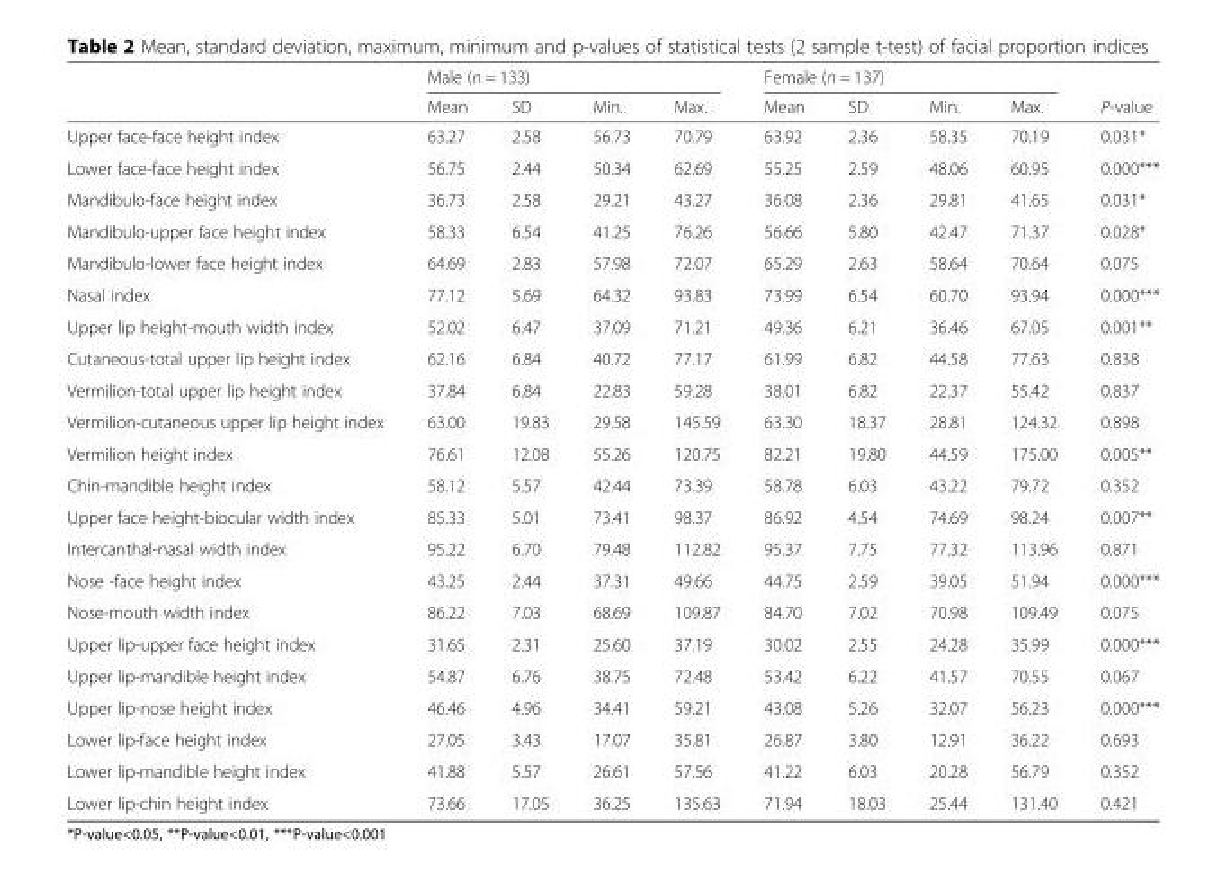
<table><thead><tr><td rowspan="2"></td><td colspan="4">Male (n = 133)</td><td colspan="4">Female (n = 137)</td><td rowspan="2">P-value</td></tr><tr><td>Mean</td><td>SD</td><td>Min.</td><td>Max.</td><td>Mean</td><td>SD</td><td>Min.</td><td>Max.</td></tr></thead><tbody><tr><td>Upper face-face height index</td><td>63.27</td><td>2.58</td><td>56.73</td><td>70.79</td><td>63.92</td><td>2.36</td><td>58.35</td><td>70.19</td><td>0.031*</td></tr><tr><td>Lower face-face height index</td><td>56.75</td><td>2.44</td><td>50.34</td><td>62.69</td><td>55.25</td><td>2.59</td><td>48.06</td><td>60.95</td><td>0.000***</td></tr><tr><td>Mandibulo-face height index</td><td>36.73</td><td>2.58</td><td>29.21</td><td>43.27</td><td>36.08</td><td>2.36</td><td>29.81</td><td>41.65</td><td>0.031*</td></tr><tr><td>Mandibulo-upper face height index</td><td>58.33</td><td>6.54</td><td>41.25</td><td>76.26</td><td>56.66</td><td>5.80</td><td>42.47</td><td>71.37</td><td>0.028*</td></tr><tr><td>Mandibulo-lower face height index</td><td>64.69</td><td>2.83</td><td>57.98</td><td>72.07</td><td>65.29</td><td>2.63</td><td>58.64</td><td>70.64</td><td>0.075</td></tr><tr><td>Nasal index</td><td>77.12</td><td>5.69</td><td>64.32</td><td>93.83</td><td>73.99</td><td>6.54</td><td>60.70</td><td>93.94</td><td>0.000***</td></tr><tr><td>Upper lip height-mouth width index</td><td>52.02</td><td>6.47</td><td>37.09</td><td>71.21</td><td>49.36</td><td>6.21</td><td>36.46</td><td>67.05</td><td>0.001**</td></tr><tr><td>Cutaneous-total upper lip height index</td><td>62.16</td><td>6.84</td><td>40.72</td><td>77.17</td><td>61.99</td><td>6.82</td><td>44.58</td><td>77.63</td><td>0.838</td></tr><tr><td>Vermilion-total upper lip height index</td><td>37.84</td><td>6.84</td><td>22.83</td><td>59.28</td><td>38.01</td><td>6.82</td><td>22.37</td><td>55.42</td><td>0.837</td></tr><tr><td>Vermilion-cutaneous upper lip height index</td><td>63.00</td><td>19.83</td><td>29.58</td><td>145.59</td><td>63.30</td><td>18.37</td><td>28.81</td><td>124.32</td><td>0.898</td></tr><tr><td>Vermilion height index</td><td>76.61</td><td>12.08</td><td>55.26</td><td>120.75</td><td>82.21</td><td>19.80</td><td>44.59</td><td>175.00</td><td>0.005**</td></tr><tr><td>Chin-mandible height index</td><td>58.12</td><td>5.57</td><td>42.44</td><td>73.39</td><td>58.78</td><td>6.03</td><td>43.22</td><td>79.72</td><td>0.352</td></tr><tr><td>Upper face height-biocular width index</td><td>85.33</td><td>5.01</td><td>73.41</td><td>98.37</td><td>86.92</td><td>4.54</td><td>74.69</td><td>98.24</td><td>0.007**</td></tr><tr><td>Intercanthal-nasal width index</td><td>95.22</td><td>6.70</td><td>79.48</td><td>112.82</td><td>95.37</td><td>7.75</td><td>77.32</td><td>113.96</td><td>0.871</td></tr><tr><td>Nose -face height index</td><td>43.25</td><td>2.44</td><td>37.31</td><td>49.66</td><td>44.75</td><td>2.59</td><td>39.05</td><td>51.94</td><td>0.000***</td></tr><tr><td>Nose-mouth width index</td><td>86.22</td><td>7.03</td><td>68.69</td><td>109.87</td><td>84.70</td><td>7.02</td><td>70.98</td><td>109.49</td><td>0.075</td></tr><tr><td>Upper lip-upper face height index</td><td>31.65</td><td>2.31</td><td>25.60</td><td>37.19</td><td>30.02</td><td>2.55</td><td>24.28</td><td>35.99</td><td>0.000***</td></tr><tr><td>Upper lip-mandible height index</td><td>54.87</td><td>6.76</td><td>38.75</td><td>72.48</td><td>53.42</td><td>6.22</td><td>41.57</td><td>70.55</td><td>0.067</td></tr><tr><td>Upper lip-nose height index</td><td>46.46</td><td>4.96</td><td>34.41</td><td>59.21</td><td>43.08</td><td>5.26</td><td>32.07</td><td>56.23</td><td>0.000***</td></tr><tr><td>Lower lip-face height index</td><td>27.05</td><td>3.43</td><td>17.07</td><td>35.81</td><td>26.87</td><td>3.80</td><td>12.91</td><td>36.22</td><td>0.693</td></tr><tr><td>Lower lip-mandible height index</td><td>41.88</td><td>5.57</td><td>26.61</td><td>57.56</td><td>41.22</td><td>6.03</td><td>20.28</td><td>56.79</td><td>0.352</td></tr><tr><td>Lower lip-chin height index</td><td>73.66</td><td>17.05</td><td>36.25</td><td>135.63</td><td>71.94</td><td>18.03</td><td>25.44</td><td>131.40</td><td>0.421</td></tr></tbody></table>